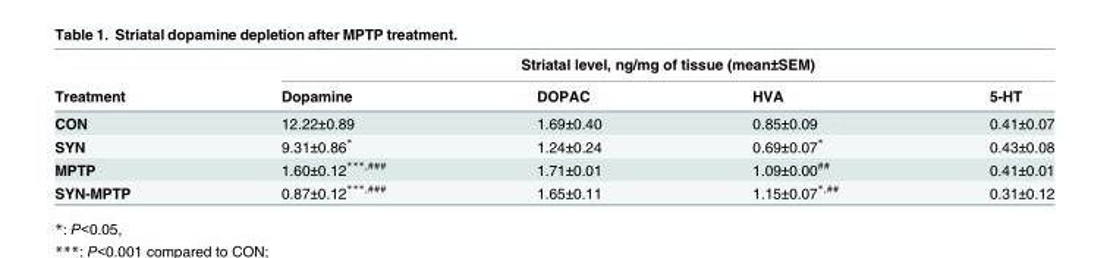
<table><thead><tr><td rowspan="2">Treatment</td><td colspan="4">Striatal level, ng/mg of tissue (mean±SEM)</td></tr><tr><td>Dopamine</td><td>DOPAC</td><td>HVA</td><td>5-HT</td></tr></thead><tbody><tr><td>CON</td><td>12.22±0.89</td><td>1.69±0.40</td><td>0.85±0.09</td><td>0.41±0.07</td></tr><tr><td>SYN</td><td>9.31±0.86*</td><td>1.24±0.24</td><td>0.69±0.07*</td><td>0.43±0.08</td></tr><tr><td>MPTP</td><td>1.60±0.12<sup>***,###</sup></td><td>1.71±0.01</td><td>1.09±0.00<sup>##</sup></td><td>0.41±0.01</td></tr><tr><td>SYN-MPTP</td><td>0.87±0.12<sup>***,###</sup></td><td>1.65±0.11</td><td>1.15±0.07<sup>*,##</sup></td><td>0.31±0.12</td></tr></tbody></table>